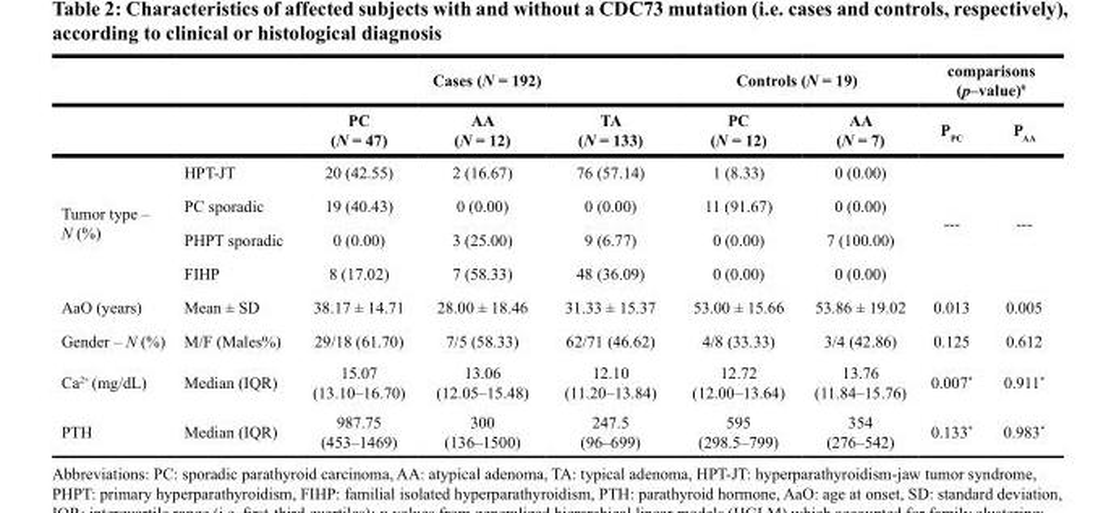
<table><thead><tr><td rowspan="2"></td><td rowspan="2"></td><td colspan="3">Cases (N = 192)</td><td colspan="2">Controls (N = 19)</td><td colspan="2">comparisons (p–value)<sup>#</sup></td></tr><tr><td>PC (N = 47)</td><td>AA (N = 12)</td><td>TA (N = 133)</td><td>PC (N = 12)</td><td>AA (N = 7)</td><td>P<sub>PC</sub></td><td>P<sub>AA</sub></td></tr></thead><tbody><tr><td rowspan="4">Tumor type – N (%)</td><td>HPT-JT</td><td>20 (42.55)</td><td>2 (16.67)</td><td>76 (57.14)</td><td>1 (8.33)</td><td>0 (0.00)</td><td rowspan="4">---</td><td rowspan="4">---</td></tr><tr><td>PC sporadic</td><td>19 (40.43)</td><td>0 (0.00)</td><td>0 (0.00)</td><td>11 (91.67)</td><td>0 (0.00)</td></tr><tr><td>PHPT sporadic</td><td>0 (0.00)</td><td>3 (25.00)</td><td>9 (6.77)</td><td>0 (0.00)</td><td>7 (100.00)</td></tr><tr><td>FIHP</td><td>8 (17.02)</td><td>7 (58.33)</td><td>48 (36.09)</td><td>0 (0.00)</td><td>0 (0.00)</td></tr><tr><td>AaO (years)</td><td>Mean ± SD</td><td>38.17 ± 14.71</td><td>28.00 ± 18.46</td><td>31.33 ± 15.37</td><td>53.00 ± 15.66</td><td>53.86 ± 19.02</td><td>0.013</td><td>0.005</td></tr><tr><td>Gender – N (%)</td><td>M/F (Males%)</td><td>29/18 (61.70)</td><td>7/5 (58.33)</td><td>62/71 (46.62)</td><td>4/8 (33.33)</td><td>3/4 (42.86)</td><td>0.125</td><td>0.612</td></tr><tr><td>Ca<sup>2+</sup> (mg/dL)</td><td>Median (IQR)</td><td>15.07 (13.10–16.70)</td><td>13.06 (12.05–15.48)</td><td>12.10 (11.20–13.84)</td><td>12.72 (12.00–13.64)</td><td>13.76 (11.84–15.76)</td><td>0.007*</td><td>0.911*</td></tr><tr><td>PTH</td><td>Median (IQR)</td><td>987.75 (453–1469)</td><td>300 (136–1500)</td><td>247.5 (96–699)</td><td>595 (298.5–799)</td><td>354 (276–542)</td><td>0.133*</td><td>0.983*</td></tr></tbody></table>